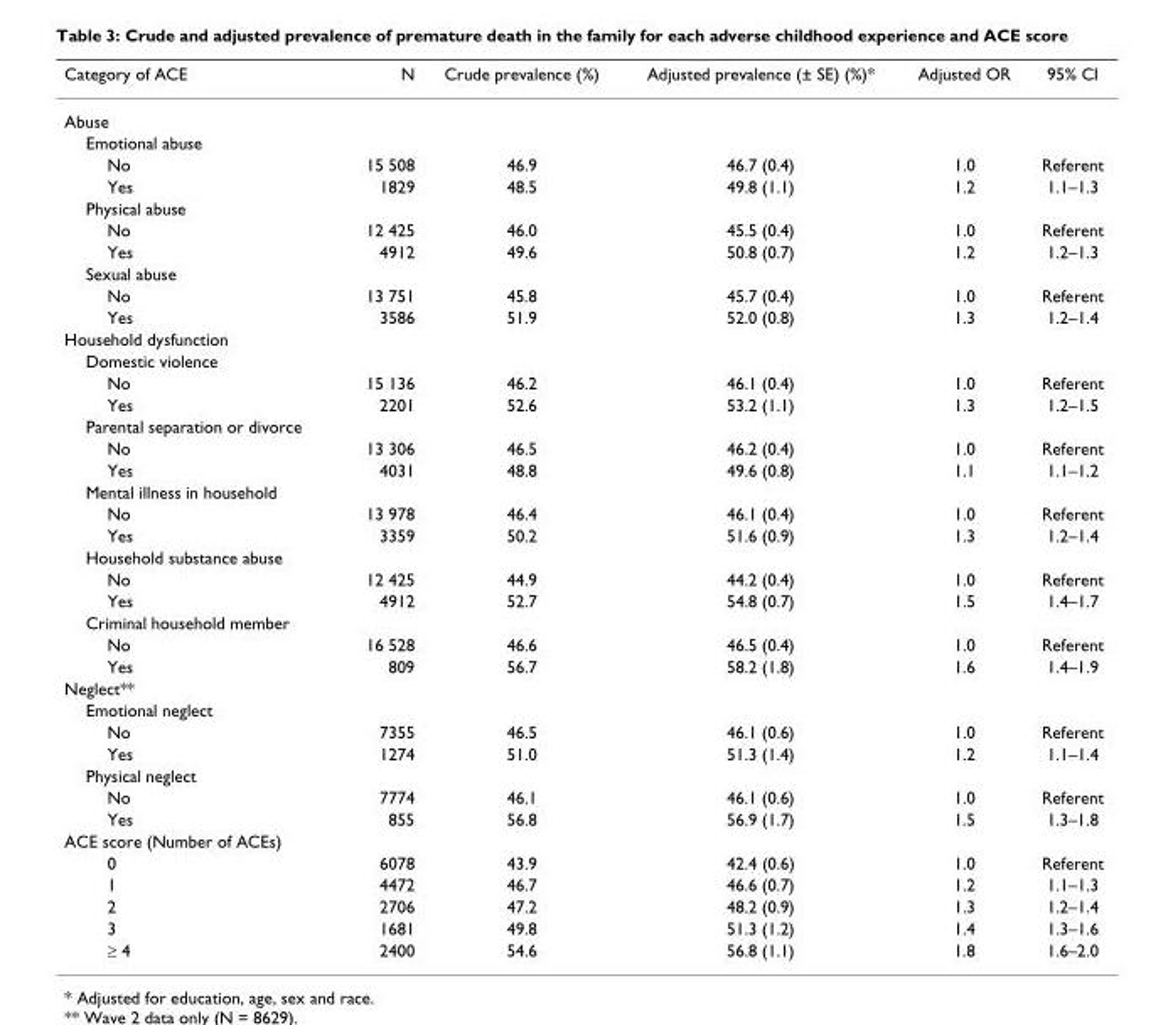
<table><thead><tr><td>Category of ACE</td><td>N</td><td>Crude prevalence (%)</td><td>Adjusted prevalence (± SE) (%)*</td><td>Adjusted OR</td><td>95% CI</td></tr></thead><tbody><tr><td colspan="6">Abuse</td></tr><tr><td colspan="6">Emotional abuse</td></tr><tr><td>No</td><td>15 508</td><td>46.9</td><td>46.7 (0.4)</td><td>1.0</td><td>Referent</td></tr><tr><td>Yes</td><td>1829</td><td>48.5</td><td>49.8 (1.1)</td><td>1.2</td><td>1.1–1.3</td></tr><tr><td colspan="6">Physical abuse</td></tr><tr><td>No</td><td>12 425</td><td>46.0</td><td>45.5 (0.4)</td><td>1.0</td><td>Referent</td></tr><tr><td>Yes</td><td>4912</td><td>49.6</td><td>50.8 (0.7)</td><td>1.2</td><td>1.2–1.3</td></tr><tr><td colspan="6">Sexual abuse</td></tr><tr><td>No</td><td>13 751</td><td>45.8</td><td>45.7 (0.4)</td><td>1.0</td><td>Referent</td></tr><tr><td>Yes</td><td>3586</td><td>51.9</td><td>52.0 (0.8)</td><td>1.3</td><td>1.2–1.4</td></tr><tr><td colspan="6">Household dysfunction</td></tr><tr><td colspan="6">Domestic violence</td></tr><tr><td>No</td><td>15 136</td><td>46.2</td><td>46.1 (0.4)</td><td>1.0</td><td>Referent</td></tr><tr><td>Yes</td><td>2201</td><td>52.6</td><td>53.2 (1.1)</td><td>1.3</td><td>1.2–1.5</td></tr><tr><td colspan="6">Parental separation or divorce</td></tr><tr><td>No</td><td>13 306</td><td>46.5</td><td>46.2 (0.4)</td><td>1.0</td><td>Referent</td></tr><tr><td>Yes</td><td>4031</td><td>48.8</td><td>49.6 (0.8)</td><td>1.1</td><td>1.1–1.2</td></tr><tr><td colspan="6">Mental illness in household</td></tr><tr><td>No</td><td>13 978</td><td>46.4</td><td>46.1 (0.4)</td><td>1.0</td><td>Referent</td></tr><tr><td>Yes</td><td>3359</td><td>50.2</td><td>51.6 (0.9)</td><td>1.3</td><td>1.2–1.4</td></tr><tr><td colspan="6">Household substance abuse</td></tr><tr><td>No</td><td>12 425</td><td>44.9</td><td>44.2 (0.4)</td><td>1.0</td><td>Referent</td></tr><tr><td>Yes</td><td>4912</td><td>52.7</td><td>54.8 (0.7)</td><td>1.5</td><td>1.4–1.7</td></tr><tr><td colspan="6">Criminal household member</td></tr><tr><td>No</td><td>16 528</td><td>46.6</td><td>46.5 (0.4)</td><td>1.0</td><td>Referent</td></tr><tr><td>Yes</td><td>809</td><td>56.7</td><td>58.2 (1.8)</td><td>1.6</td><td>1.4–1.9</td></tr><tr><td colspan="6">Neglect**</td></tr><tr><td colspan="6">Emotional neglect</td></tr><tr><td>No</td><td>7355</td><td>46.5</td><td>46.1 (0.6)</td><td>1.0</td><td>Referent</td></tr><tr><td>Yes</td><td>1274</td><td>51.0</td><td>51.3 (1.4)</td><td>1.2</td><td>1.1–1.4</td></tr><tr><td colspan="6">Physical neglect</td></tr><tr><td>No</td><td>7774</td><td>46.1</td><td>46.1 (0.6)</td><td>1.0</td><td>Referent</td></tr><tr><td>Yes</td><td>855</td><td>56.8</td><td>56.9 (1.7)</td><td>1.5</td><td>1.3–1.8</td></tr><tr><td colspan="6">ACE score (Number of ACEs)</td></tr><tr><td>0</td><td>6078</td><td>43.9</td><td>42.4 (0.6)</td><td>1.0</td><td>Referent</td></tr><tr><td>1</td><td>4472</td><td>46.7</td><td>46.6 (0.7)</td><td>1.2</td><td>1.1–1.3</td></tr><tr><td>2</td><td>2706</td><td>47.2</td><td>48.2 (0.9)</td><td>1.3</td><td>1.2–1.4</td></tr><tr><td>3</td><td>1681</td><td>49.8</td><td>51.3 (1.2)</td><td>1.4</td><td>1.3–1.6</td></tr><tr><td>≥ 4</td><td>2400</td><td>54.6</td><td>56.8 (1.1)</td><td>1.8</td><td>1.6–2.0</td></tr></tbody></table>